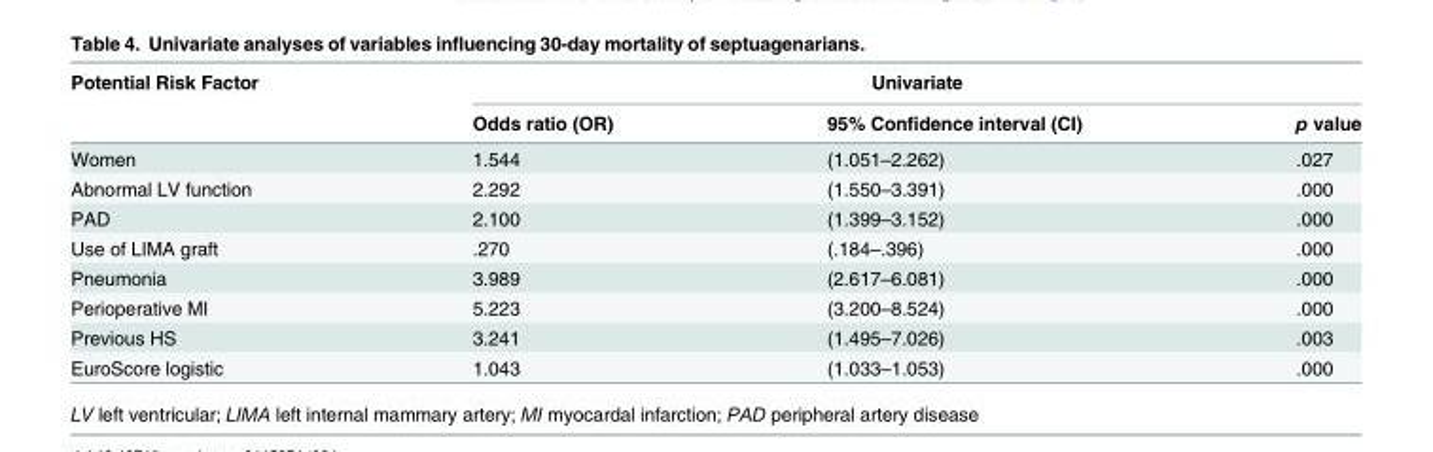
<table><thead><tr><td rowspan="2">Potential Risk Factor</td><td colspan="3">Univariate</td></tr><tr><td>Odds ratio (OR)</td><td>95% Confidence interval (CI)</td><td>p value</td></tr></thead><tbody><tr><td>Women</td><td>1.544</td><td>(1.051–2.262)</td><td>.027</td></tr><tr><td>Abnormal LV function</td><td>2.292</td><td>(1.550–3.391)</td><td>.000</td></tr><tr><td>PAD</td><td>2.100</td><td>(1.399–3.152)</td><td>.000</td></tr><tr><td>Use of LIMA graft</td><td>.270</td><td>(.184–.396)</td><td>.000</td></tr><tr><td>Pneumonia</td><td>3.989</td><td>(2.617–6.081)</td><td>.000</td></tr><tr><td>Perioperative MI</td><td>5.223</td><td>(3.200–8.524)</td><td>.000</td></tr><tr><td>Previous HS</td><td>3.241</td><td>(1.495–7.026)</td><td>.003</td></tr><tr><td>EuroScore logistic</td><td>1.043</td><td>(1.033–1.053)</td><td>.000</td></tr></tbody></table>